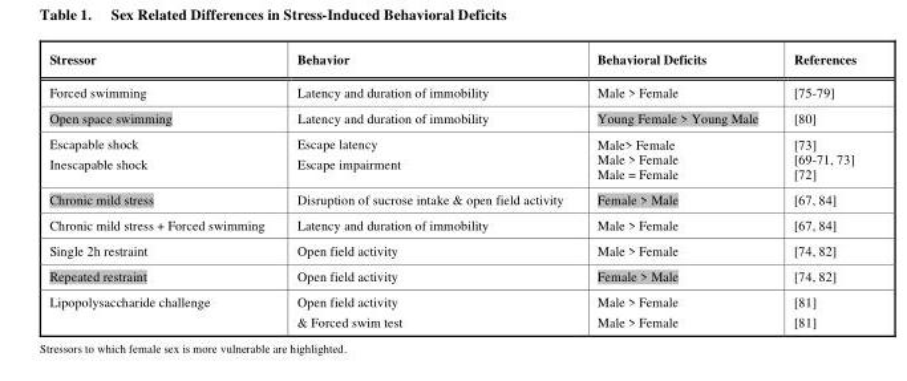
<table><thead><tr><td>Stressor</td><td>Behavior</td><td>Behavioral Deficits</td><td>References</td></tr></thead><tbody><tr><td>Forced swimming</td><td>Latency and duration of immobility</td><td>Male &gt; Female</td><td>[75-79]</td></tr><tr><td>Open space swimming</td><td>Latency and duration of immobility</td><td>Young Female &gt; Young Male</td><td>[80]</td></tr><tr><td>Escapable shock Inescapable shock</td><td>Escape latency Escape impairment</td><td>Male&gt; Female Male &gt; Female Male = Female</td><td>[73] [69-71, 73] [72]</td></tr><tr><td>Chronic mild stress</td><td>Disruption of sucrose intake &amp; open field activity</td><td>Female &gt; Male</td><td>[67, 84]</td></tr><tr><td>Chronic mild stress + Forced swimming</td><td>Latency and duration of immobility</td><td>Male &gt; Female</td><td>[67, 84]</td></tr><tr><td>Single 2h restraint</td><td>Open field activity</td><td>Male &gt; Female</td><td>[74, 82]</td></tr><tr><td>Repeated restraint</td><td>Open field activity</td><td>Female &gt; Male</td><td>[74, 82]</td></tr><tr><td>Lipopolysaccharide challenge</td><td>Open field activity &amp; Forced swim test</td><td>Male &gt; Female Male &gt; Female</td><td>[81] [81]</td></tr></tbody></table>